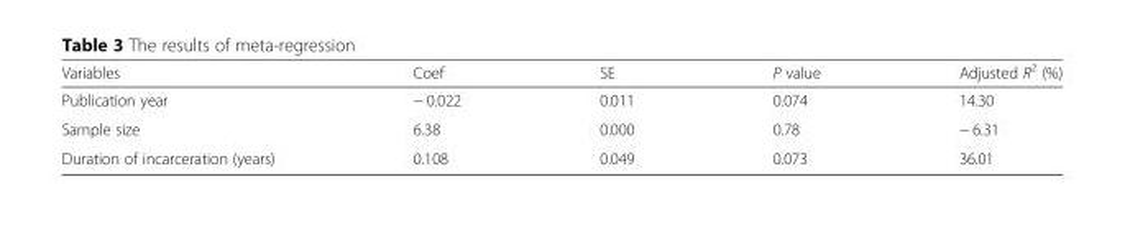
<table><thead><tr><td>Variables</td><td>Coef</td><td>SE</td><td>P value</td><td>Adjusted R<sup>2</sup> (%)</td></tr></thead><tbody><tr><td>Publication year</td><td>− 0.022</td><td>0.011</td><td>0.074</td><td>14.30</td></tr><tr><td>Sample size</td><td>6.38</td><td>0.000</td><td>0.78</td><td>− 6.31</td></tr><tr><td>Duration of incarceration (years)</td><td>0.108</td><td>0.049</td><td>0.073</td><td>36.01</td></tr></tbody></table>